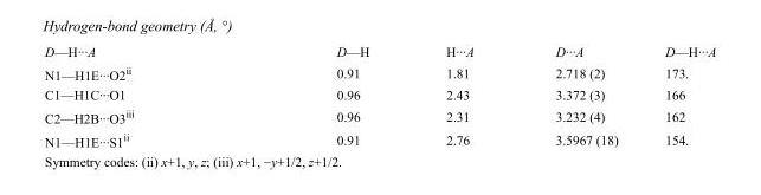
<table><tbody><tr><td>D—H···A</td><td>D—H</td><td>H···A</td><td>D···A</td><td>D—H···A</td></tr><tr><td>N1—H1E···O2<sup>ii</sup></td><td>0.91</td><td>1.81</td><td>2.718 (2)</td><td>173.</td></tr><tr><td>C1—H1C···O1</td><td>0.96</td><td>2.43</td><td>3.372 (3)</td><td>166</td></tr><tr><td>C2—H2B···O3<sup>iii</sup></td><td>0.96</td><td>2.31</td><td>3.232 (4)</td><td>162</td></tr><tr><td>N1—H1E···S1<sup>ii</sup></td><td>0.91</td><td>2.76</td><td>3.5967 (18)</td><td>154.</td></tr></tbody></table>